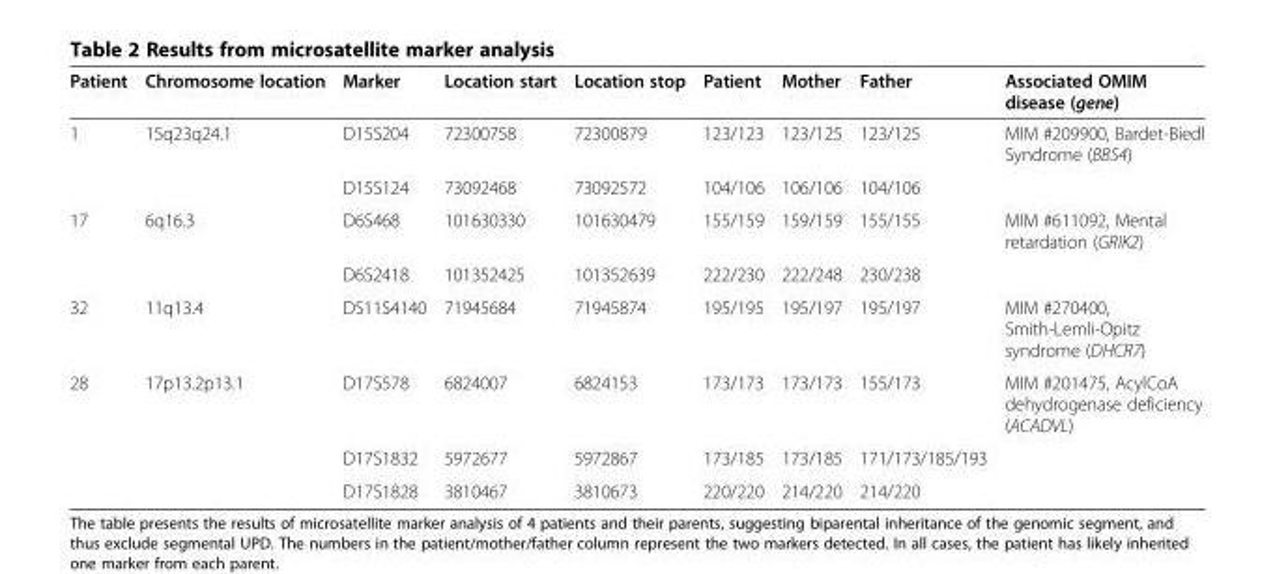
<table><thead><tr><td>Patient</td><td>Chromosome location</td><td>Marker</td><td>Location start</td><td>Location stop</td><td>Patient</td><td>Mother</td><td>Father</td><td>Associated OMIM disease (gene)</td></tr></thead><tbody><tr><td rowspan="2">1</td><td>15q23q24.1</td><td>D15S204</td><td>72300758</td><td>72300879</td><td>123/123</td><td>123/125</td><td>123/125</td><td>MIM #209900, Bardet-Biedl Syndrome (BBS4)</td></tr><tr><td></td><td>D15S124</td><td>73092468</td><td>73092572</td><td>104/106</td><td>106/106</td><td>104/106</td><td></td></tr><tr><td rowspan="2">17</td><td>6q16.3</td><td>D6S468</td><td>101630330</td><td>101630479</td><td>155/159</td><td>159/159</td><td>155/155</td><td>MIM #611092, Mental retardation (GRIK2)</td></tr><tr><td></td><td>D6S2418</td><td>101352425</td><td>101352639</td><td>222/230</td><td>222/248</td><td>230/238</td><td></td></tr><tr><td>32</td><td>11q13.4</td><td>DS11S4140</td><td>71945684</td><td>71945874</td><td>195/195</td><td>195/197</td><td>195/197</td><td>MIM #270400, Smith-Lemli-Opitz syndrome (DHCR7)</td></tr><tr><td rowspan="3">28</td><td>17p13.2p13.1</td><td>D17S578</td><td>6824007</td><td>6824153</td><td>173/173</td><td>173/173</td><td>155/173</td><td>MIM #201475, AcylCoA dehydrogenase deficiency (ACADVL)</td></tr><tr><td></td><td>D17S1832</td><td>5972677</td><td>5972867</td><td>173/185</td><td>173/185</td><td>171/173/185/193</td><td></td></tr><tr><td></td><td>D17S1828</td><td>3810467</td><td>3810673</td><td>220/220</td><td>214/220</td><td>214/220</td><td></td></tr></tbody></table>